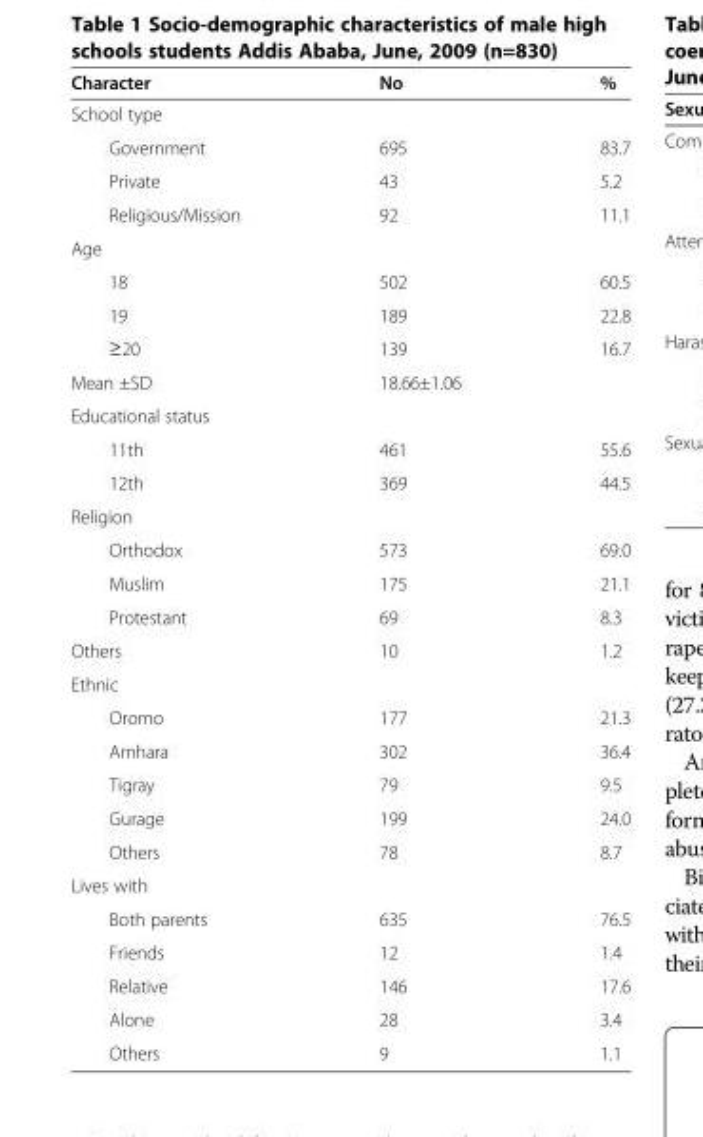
<table><thead><tr><td>Character</td><td>No</td><td>%</td></tr></thead><tbody><tr><td colspan="3">School type</td></tr><tr><td>Government</td><td>695</td><td>83.7</td></tr><tr><td>Private</td><td>43</td><td>5.2</td></tr><tr><td>Religious/Mission</td><td>92</td><td>11.1</td></tr><tr><td colspan="3">Age</td></tr><tr><td>18</td><td>502</td><td>60.5</td></tr><tr><td>19</td><td>189</td><td>22.8</td></tr><tr><td>≥20</td><td>139</td><td>16.7</td></tr><tr><td>Mean ±SD</td><td>18.66±1.06</td><td></td></tr><tr><td colspan="3">Educational status</td></tr><tr><td>11th</td><td>461</td><td>55.6</td></tr><tr><td>12th</td><td>369</td><td>44.5</td></tr><tr><td colspan="3">Religion</td></tr><tr><td>Orthodox</td><td>573</td><td>69.0</td></tr><tr><td>Muslim</td><td>175</td><td>21.1</td></tr><tr><td>Protestant</td><td>69</td><td>8.3</td></tr><tr><td>Others</td><td>10</td><td>1.2</td></tr><tr><td colspan="3">Ethnic</td></tr><tr><td>Oromo</td><td>177</td><td>21.3</td></tr><tr><td>Amhara</td><td>302</td><td>36.4</td></tr><tr><td>Tigray</td><td>79</td><td>9.5</td></tr><tr><td>Gurage</td><td>199</td><td>24.0</td></tr><tr><td>Others</td><td>78</td><td>8.7</td></tr><tr><td colspan="3">Lives with</td></tr><tr><td>Both parents</td><td>635</td><td>76.5</td></tr><tr><td>Friends</td><td>12</td><td>1.4</td></tr><tr><td>Relative</td><td>146</td><td>17.6</td></tr><tr><td>Alone</td><td>28</td><td>3.4</td></tr><tr><td>Others</td><td>9</td><td>1.1</td></tr></tbody></table>